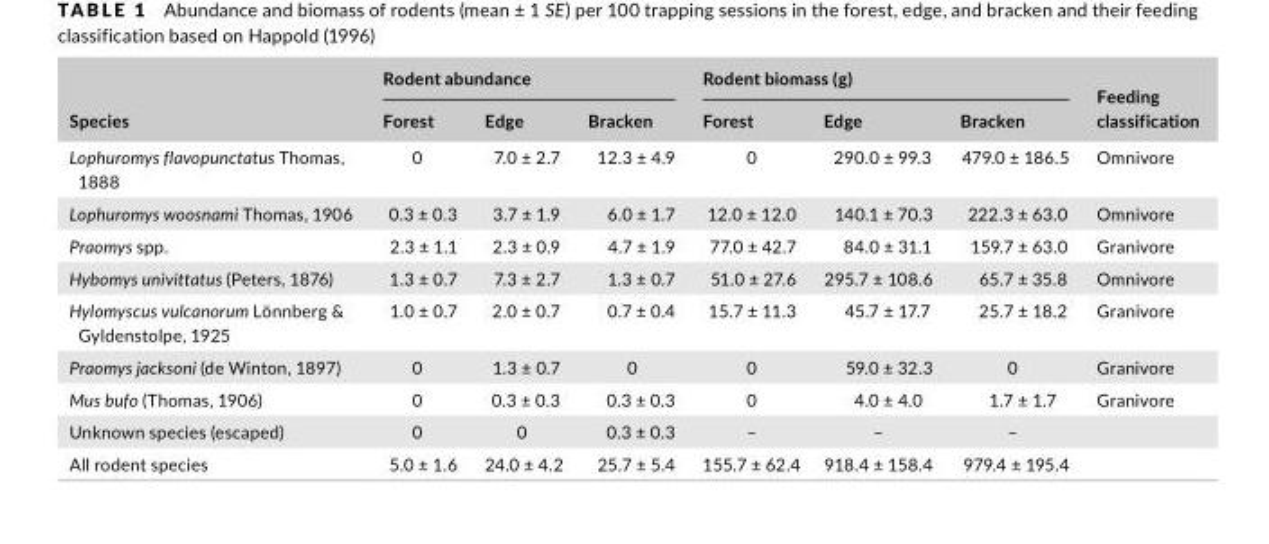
<table><thead><tr><td rowspan="2">Species</td><td colspan="3">Rodent abundance</td><td colspan="3">Rodent biomass (g)</td><td rowspan="2">Feeding classification</td></tr><tr><td>Forest</td><td>Edge</td><td>Bracken</td><td>Forest</td><td>Edge</td><td>Bracken</td></tr></thead><tbody><tr><td>Lophuromys flavopunctatus Thomas, 1888</td><td>0</td><td>7.0 ± 2.7</td><td>12.3 ± 4.9</td><td>0</td><td>290.0 ± 99.3</td><td>479.0 ± 186.5</td><td>Omnivore</td></tr><tr><td>Lophuromys woosnami Thomas, 1906</td><td>0.3 ± 0.3</td><td>3.7 ± 1.9</td><td>6.0 ± 1.7</td><td>12.0 ± 12.0</td><td>140.1 ± 70.3</td><td>222.3 ± 63.0</td><td>Omnivore</td></tr><tr><td>Praomys spp.</td><td>2.3 ± 1.1</td><td>2.3 ± 0.9</td><td>4.7 ± 1.9</td><td>77.0 ± 42.7</td><td>84.0 ± 31.1</td><td>159.7 ± 63.0</td><td>Granivore</td></tr><tr><td>Hybomys univittatus (Peters, 1876)</td><td>1.3 ± 0.7</td><td>7.3 ± 2.7</td><td>1.3 ± 0.7</td><td>51.0 ± 27.6</td><td>295.7 ± 108.6</td><td>65.7 ± 35.8</td><td>Omnivore</td></tr><tr><td>Hylomyscus vulcanorum Lönnberg &amp; Gyldenstolpe, 1925</td><td>1.0 ± 0.7</td><td>2.0 ± 0.7</td><td>0.7 ± 0.4</td><td>15.7 ± 11.3</td><td>45.7 ± 17.7</td><td>25.7 ± 18.2</td><td>Granivore</td></tr><tr><td>Praomys jacksoni (de Winton, 1897)</td><td>0</td><td>1.3 ± 0.7</td><td>0</td><td>0</td><td>59.0 ± 32.3</td><td>0</td><td>Granivore</td></tr><tr><td>Mus bufo (Thomas, 1906)</td><td>0</td><td>0.3 ± 0.3</td><td>0.3 ± 0.3</td><td>0</td><td>4.0 ± 4.0</td><td>1.7 ± 1.7</td><td>Granivore</td></tr><tr><td>Unknown species (escaped)</td><td>0</td><td>0</td><td>0.3 ± 0.3</td><td>–</td><td>–</td><td>–</td><td></td></tr><tr><td>All rodent species</td><td>5.0 ± 1.6</td><td>24.0 ± 4.2</td><td>25.7 ± 5.4</td><td>155.7 ± 62.4</td><td>918.4 ± 158.4</td><td>979.4 ± 195.4</td><td></td></tr></tbody></table>